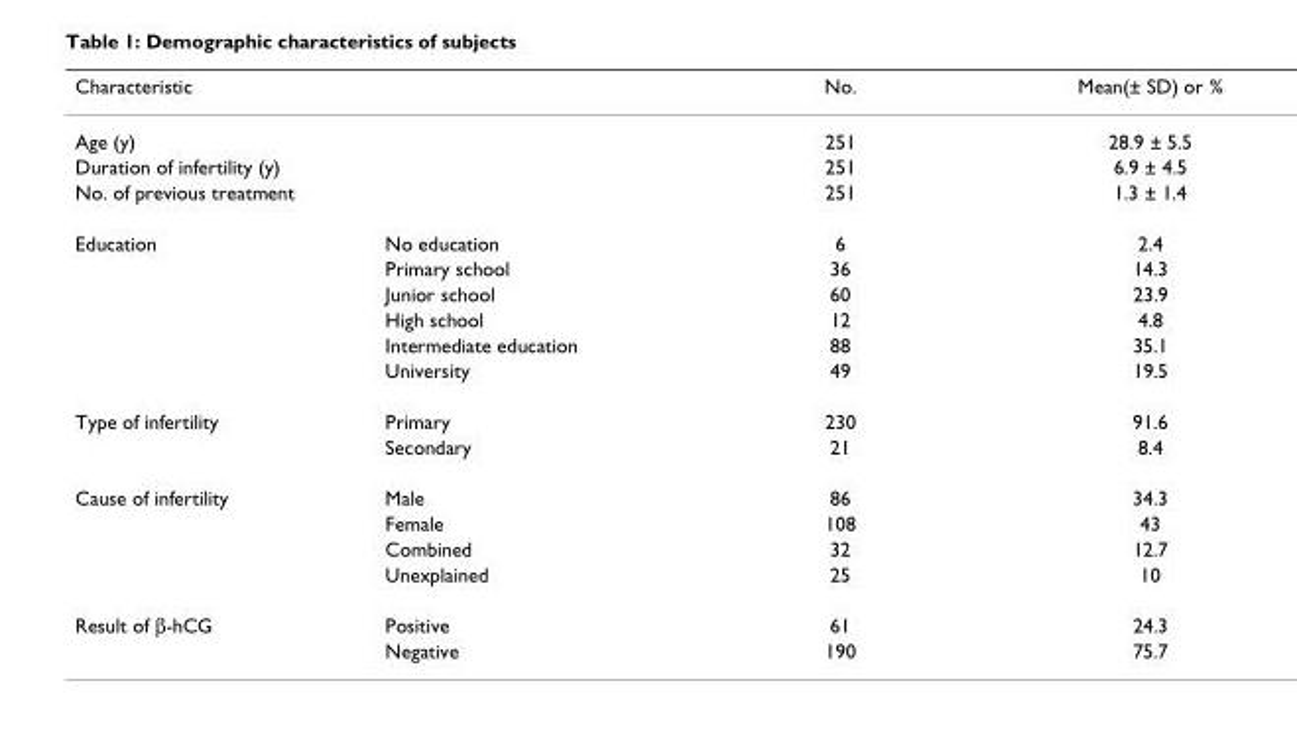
<table><thead><tr><td>Characteristic</td><td></td><td>No.</td><td>Mean(± SD) or %</td></tr></thead><tbody><tr><td>Age (y)</td><td></td><td>251</td><td>28.9 ± 5.5</td></tr><tr><td>Duration of infertility (y)</td><td></td><td>251</td><td>6.9 ± 4.5</td></tr><tr><td>No. of previous treatment</td><td></td><td>251</td><td>1.3 ± 1.4</td></tr><tr><td rowspan="6">Education</td><td>No education</td><td>6</td><td>2.4</td></tr><tr><td>Primary school</td><td>36</td><td>14.3</td></tr><tr><td>Junior school</td><td>60</td><td>23.9</td></tr><tr><td>High school</td><td>12</td><td>4.8</td></tr><tr><td>Intermediate education</td><td>88</td><td>35.1</td></tr><tr><td>University</td><td>49</td><td>19.5</td></tr><tr><td rowspan="2">Type of infertility</td><td>Primary</td><td>230</td><td>91.6</td></tr><tr><td>Secondary</td><td>21</td><td>8.4</td></tr><tr><td rowspan="4">Cause of infertility</td><td>Male</td><td>86</td><td>34.3</td></tr><tr><td>Female</td><td>108</td><td>43</td></tr><tr><td>Combined</td><td>32</td><td>12.7</td></tr><tr><td>Unexplained</td><td>25</td><td>10</td></tr><tr><td rowspan="2">Result of β-hCG</td><td>Positive</td><td>61</td><td>24.3</td></tr><tr><td>Negative</td><td>190</td><td>75.7</td></tr></tbody></table>